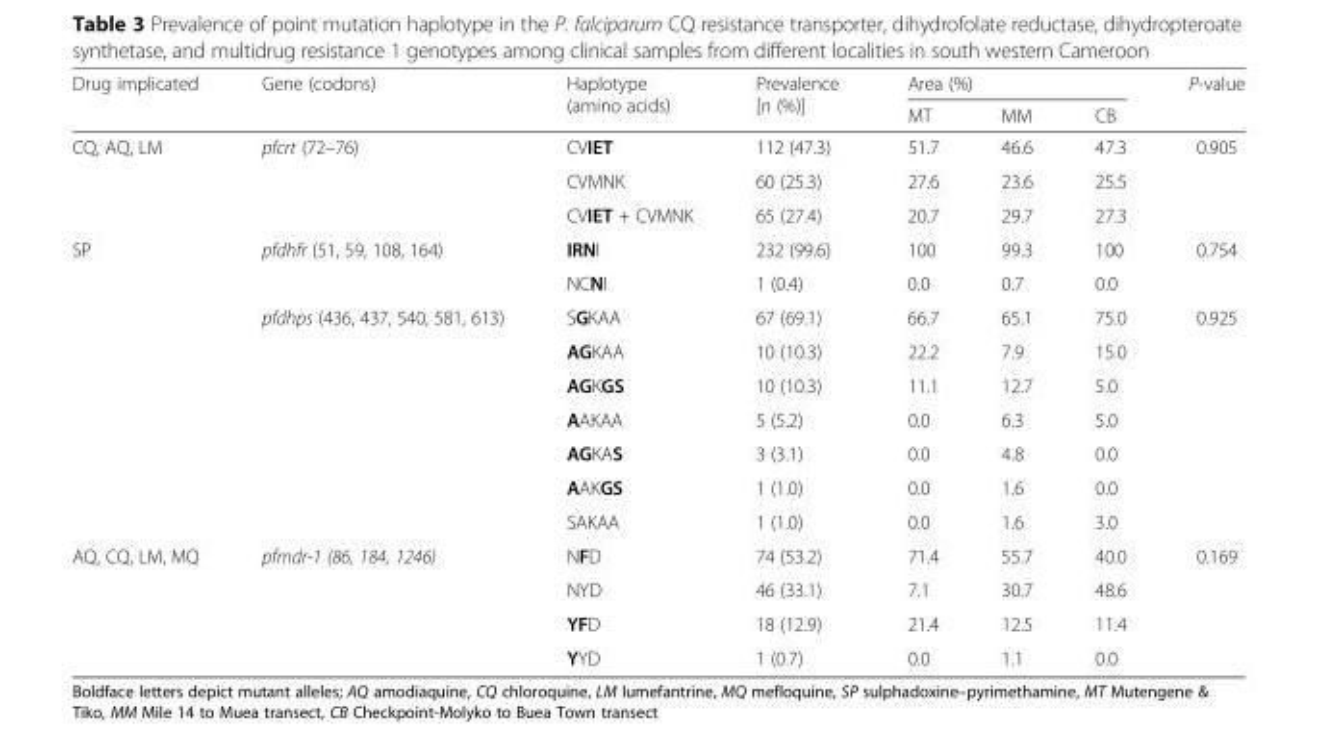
<table><thead><tr><td rowspan="2">Drug implicated</td><td rowspan="2">Gene (codons)</td><td rowspan="2">Haplotype (amino acids)</td><td rowspan="2">Prevalence [n (%)]</td><td colspan="3">Area (%)</td><td rowspan="2">P-value</td></tr><tr><td>MT</td><td>MM</td><td>CB</td></tr></thead><tbody><tr><td rowspan="3">CQ, AQ, LM</td><td rowspan="3">pfcrt (72–76)</td><td>CVIET</td><td>112 (47.3)</td><td>51.7</td><td>46.6</td><td>47.3</td><td rowspan="3">0.905</td></tr><tr><td>CVMNK</td><td>60 (25.3)</td><td>27.6</td><td>23.6</td><td>25.5</td></tr><tr><td>CVIET + CVMNK</td><td>65 (27.4)</td><td>20.7</td><td>29.7</td><td>27.3</td></tr><tr><td rowspan="9">SP</td><td rowspan="2">pfdhfr (51, 59, 108, 164)</td><td>IRNI</td><td>232 (99.6)</td><td>100</td><td>99.3</td><td>100</td><td rowspan="2">0.754</td></tr><tr><td>NCNI</td><td>1 (0.4)</td><td>0.0</td><td>0.7</td><td>0.0</td></tr><tr><td rowspan="7">pfdhps (436, 437, 540, 581, 613)</td><td>SGKAA</td><td>67 (69.1)</td><td>66.7</td><td>65.1</td><td>75.0</td><td rowspan="7">0.925</td></tr><tr><td>AGKAA</td><td>10 (10.3)</td><td>22.2</td><td>7.9</td><td>15.0</td></tr><tr><td>AGKGS</td><td>10 (10.3)</td><td>11.1</td><td>12.7</td><td>5.0</td></tr><tr><td>AAKAA</td><td>5 (5.2)</td><td>0.0</td><td>6.3</td><td>5.0</td></tr><tr><td>AGKAS</td><td>3 (3.1)</td><td>0.0</td><td>4.8</td><td>0.0</td></tr><tr><td>AAKGS</td><td>1 (1.0)</td><td>0.0</td><td>1.6</td><td>0.0</td></tr><tr><td>SAKAA</td><td>1 (1.0)</td><td>0.0</td><td>1.6</td><td>3.0</td></tr><tr><td rowspan="4">AQ, CQ, LM, MQ</td><td rowspan="4">pfmdr-1 (86, 184, 1246)</td><td>NFD</td><td>74 (53.2)</td><td>71.4</td><td>55.7</td><td>40.0</td><td rowspan="4">0.169</td></tr><tr><td>NYD</td><td>46 (33.1)</td><td>7.1</td><td>30.7</td><td>48.6</td></tr><tr><td>YFD</td><td>18 (12.9)</td><td>21.4</td><td>12.5</td><td>11.4</td></tr><tr><td>YYD</td><td>1 (0.7)</td><td>0.0</td><td>1.1</td><td>0.0</td></tr></tbody></table>